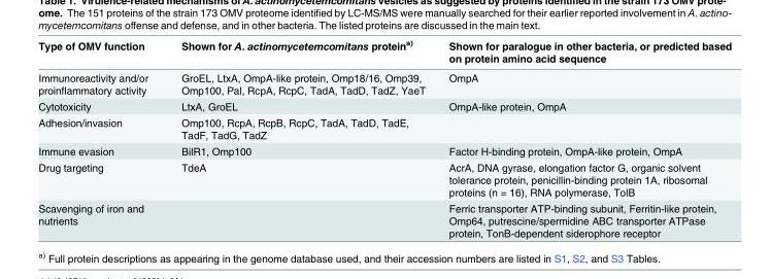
<table><thead><tr><td>Type of OMV function</td><td>Shown for A. actinomycetemcomitans protein<sup>a)</sup></td><td>Shown for paralogue in other bacteria, or predicted based on protein amino acid sequence</td></tr></thead><tbody><tr><td>Immunoreactivity and/or proinflammatory activity</td><td>GroEL, LtxA, OmpA-like protein, Omp18/16, Omp39, Omp100, Pal, RcpA, RcpC, TadA, TadD, TadZ, YaeT</td><td>OmpA</td></tr><tr><td>Cytotoxicity</td><td>LtxA, GroEL</td><td>OmpA-like protein, OmpA</td></tr><tr><td>Adhesion/invasion</td><td>Omp100, RcpA, RcpB, RcpC, TadA, TadD, TadE, TadF, TadG, TadZ</td><td></td></tr><tr><td>Immune evasion</td><td>BilR1, Omp100</td><td>Factor H-binding protein, OmpA-like protein, OmpA</td></tr><tr><td>Drug targeting</td><td>TdeA</td><td>AcrA, DNA gyrase, elongation factor G, organic solvent tolerance protein, penicillin-binding protein 1A, ribosomal proteins (n = 16), RNA polymerase, TolB</td></tr><tr><td>Scavenging of iron and nutrients</td><td></td><td>Ferric transporter ATP-binding subunit, Ferritin-like protein, Omp64, putrescine/spermidine ABC transporter ATPase protein, TonB-dependent siderophore receptor</td></tr></tbody></table>